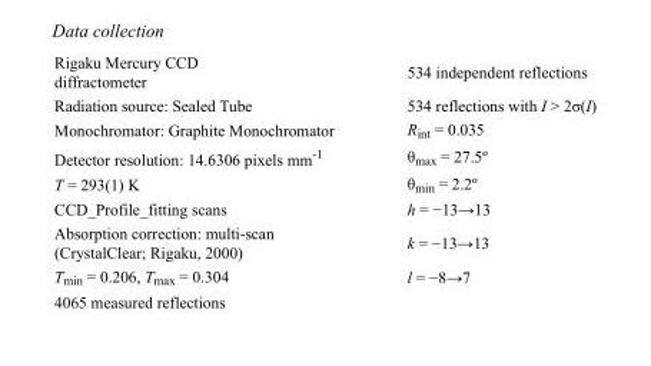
<table><tbody><tr><td>Rigaku Mercury CCD diffractometer</td><td>534 independent reflections</td></tr><tr><td>Radiation source: Sealed Tube</td><td>534 reflections with I &gt; 2σ(I)</td></tr><tr><td>Monochromator: Graphite Monochromator</td><td>R<sub>int</sub> = 0.035</td></tr><tr><td>Detector resolution: 14.6306 pixels mm<sup>-1</sup></td><td>θ<sub>max</sub> = 27.5º</td></tr><tr><td>T = 293(1) K</td><td>θ<sub>min</sub> = 2.2º</td></tr><tr><td>CCD_Profile_fitting scans</td><td>h = −13→13</td></tr><tr><td>Absorption correction: multi-scan (CrystalClear; Rigaku, 2000)</td><td>k = −13→13</td></tr><tr><td>T<sub>min</sub> = 0.206, T<sub>max</sub> = 0.304</td><td>l = −8→7</td></tr><tr><td>4065 measured reflections</td><td></td></tr></tbody></table>